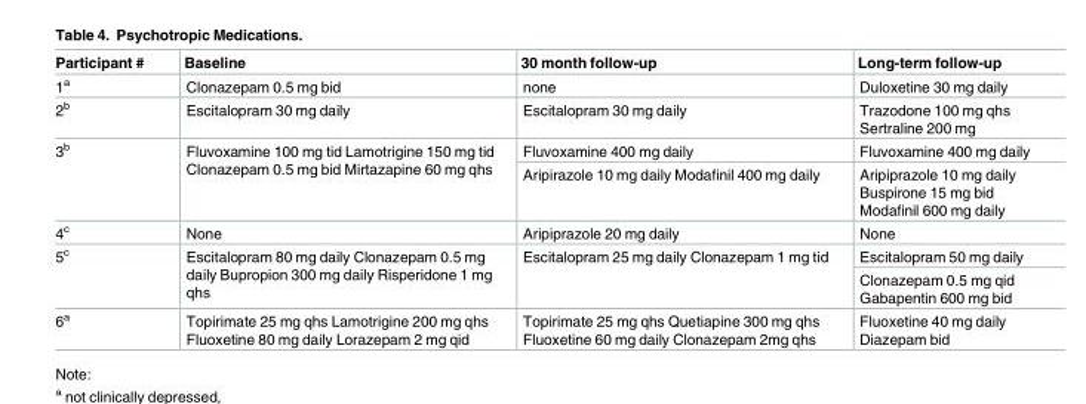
<table><thead><tr><td>Participant #</td><td>Baseline</td><td>30 month follow-up</td><td>Long-term follow-up</td></tr></thead><tbody><tr><td>1<sup>a</sup></td><td>Clonazepam 0.5 mg bid</td><td>none</td><td>Duloxetine 30 mg daily</td></tr><tr><td>2<sup>b</sup></td><td>Escitalopram 30 mg daily</td><td>Escitalopram 30 mg daily</td><td>Trazodone 100 mg qhs Sertraline 200 mg</td></tr><tr><td rowspan="2">3<sup>b</sup></td><td rowspan="2">Fluvoxamine 100 mg tid Lamotrigine 150 mg tid Clonazepam 0.5 mg bid Mirtazapine 60 mg qhs</td><td>Fluvoxamine 400 mg daily</td><td>Fluvoxamine 400 mg daily</td></tr><tr><td>Aripirazole 10 mg daily Modafinil 400 mg daily</td><td>Aripiprazole 10 mg daily Buspirone 15 mg bid Modafinil 600 mg daily</td></tr><tr><td>4<sup>c</sup></td><td>None</td><td>Aripiprazole 20 mg daily</td><td>None</td></tr><tr><td rowspan="2">5<sup>c</sup></td><td rowspan="2">Escitalopram 80 mg daily Clonazepam 0.5 mg daily Bupropion 300 mg daily Risperidone 1 mg qhs</td><td rowspan="2">Escitalopram 25 mg daily Clonazepam 1 mg tid</td><td>Escitalopram 50 mg daily</td></tr><tr><td>Clonazepam 0.5 mg qid Gabapentin 600 mg bid</td></tr><tr><td>6<sup>a</sup></td><td>Topirimate 25 mg qhs Lamotrigine 200 mg qhs Fluoxetine 80 mg daily Lorazepam 2 mg qid</td><td>Topirimate 25 mg qhs Quetiapine 300 mg qhs Fluoxetine 60 mg daily Clonazepam 2mg qhs</td><td>Fluoxetine 40 mg daily Diazepam bid</td></tr></tbody></table>